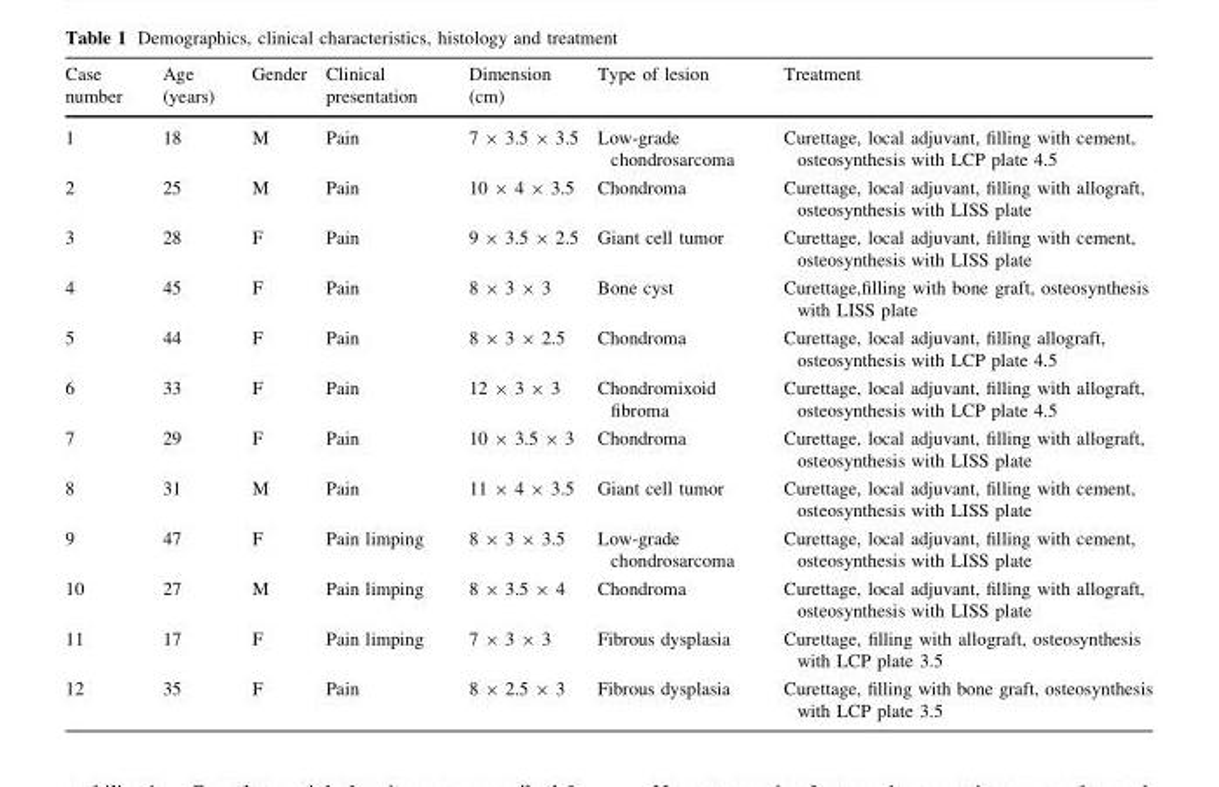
<table><thead><tr><td>Case number</td><td>Age (years)</td><td>Gender</td><td>Clinical presentation</td><td>Dimension (cm)</td><td>Type of lesion</td><td>Treatment</td></tr></thead><tbody><tr><td>1</td><td>18</td><td>M</td><td>Pain</td><td>7 × 3.5 × 3.5</td><td>Low-grade chondrosarcoma</td><td>Curettage, local adjuvant, filling with cement, osteosynthesis with LCP plate 4.5</td></tr><tr><td>2</td><td>25</td><td>M</td><td>Pain</td><td>10 × 4 × 3.5</td><td>Chondroma</td><td>Curettage, local adjuvant, filling with allograft, osteosynthesis with LISS plate</td></tr><tr><td>3</td><td>28</td><td>F</td><td>Pain</td><td>9 × 3.5 × 2.5</td><td>Giant cell tumor</td><td>Curettage, local adjuvant, filling with cement, osteosynthesis with LISS plate</td></tr><tr><td>4</td><td>45</td><td>F</td><td>Pain</td><td>8 × 3 × 3</td><td>Bone cyst</td><td>Curettage,filling with bone graft, osteosynthesis with LISS plate</td></tr><tr><td>5</td><td>44</td><td>F</td><td>Pain</td><td>8 × 3 × 2.5</td><td>Chondroma</td><td>Curettage, local adjuvant, filling allograft, osteosynthesis with LCP plate 4.5</td></tr><tr><td>6</td><td>33</td><td>F</td><td>Pain</td><td>12 × 3 × 3</td><td>Chondromixoid fibroma</td><td>Curettage, local adjuvant, filling with allograft, osteosynthesis with LCP plate 4.5</td></tr><tr><td>7</td><td>29</td><td>F</td><td>Pain</td><td>10 × 3.5 × 3</td><td>Chondroma</td><td>Curettage, local adjuvant, filling with allograft, osteosynthesis with LISS plate</td></tr><tr><td>8</td><td>31</td><td>M</td><td>Pain</td><td>11 × 4 × 3.5</td><td>Giant cell tumor</td><td>Curettage, local adjuvant, filling with cement, osteosynthesis with LISS plate</td></tr><tr><td>9</td><td>47</td><td>F</td><td>Pain limping</td><td>8 × 3 × 3.5</td><td>Low-grade chondrosarcoma</td><td>Curettage, local adjuvant, filling with cement, osteosynthesis with LISS plate</td></tr><tr><td>10</td><td>27</td><td>M</td><td>Pain limping</td><td>8 × 3.5 × 4</td><td>Chondroma</td><td>Curettage, local adjuvant, filling with allograft, osteosynthesis with LISS plate</td></tr><tr><td>11</td><td>17</td><td>F</td><td>Pain limping</td><td>7 × 3 × 3</td><td>Fibrous dysplasia</td><td>Curettage, filling with allograft, osteosynthesis with LCP plate 3.5</td></tr><tr><td>12</td><td>35</td><td>F</td><td>Pain</td><td>8 × 2.5 × 3</td><td>Fibrous dysplasia</td><td>Curettage, filling with bone graft, osteosynthesis with LCP plate 3.5</td></tr></tbody></table>